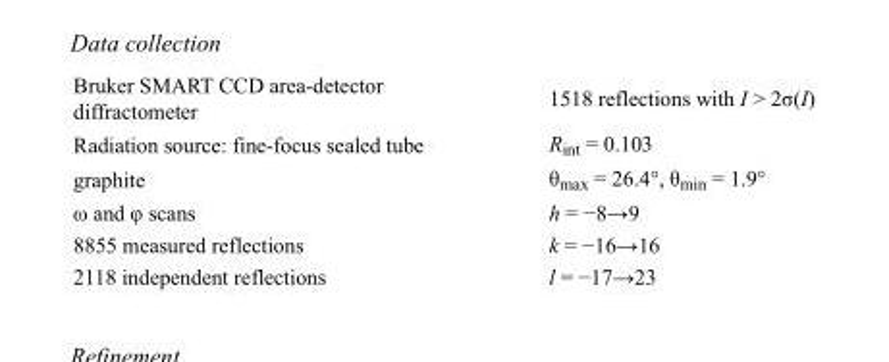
<table><tbody><tr><td>Bruker SMART CCD area-detector diffractometer</td><td>1518 reflections with I &gt; 2σ(I)</td></tr><tr><td>Radiation source: fine-focus sealed tube</td><td>R<sub>int</sub> = 0.103</td></tr><tr><td>graphite</td><td>θ<sub>max</sub> = 26.4°, θ<sub>min</sub> = 1.9°</td></tr><tr><td>ω and φ scans</td><td>h = −8→9</td></tr><tr><td>8855 measured reflections</td><td>k = −16→16</td></tr><tr><td>2118 independent reflections</td><td>l = −17→23</td></tr></tbody></table>